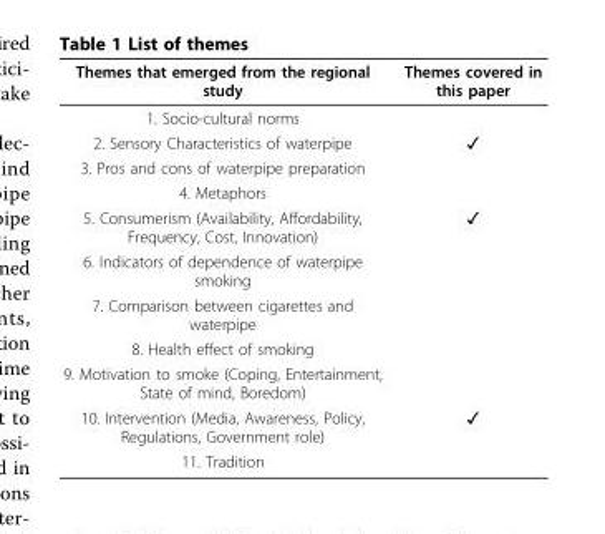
<table><thead><tr><td>Themes that emerged from the regional study</td><td>Themes covered in this paper</td></tr></thead><tbody><tr><td colspan="2">1. Socio-cultural norms</td></tr><tr><td>2. Sensory Characteristics of waterpipe</td><td>✓</td></tr><tr><td colspan="2">3. Pros and cons of waterpipe preparation</td></tr><tr><td colspan="2">4. Metaphors</td></tr><tr><td>5. Consumerism (Availability, Affordability, Frequency, Cost, Innovation)</td><td>✓</td></tr><tr><td colspan="2">6. Indicators of dependence of waterpipe smoking</td></tr><tr><td colspan="2">7. Comparison between cigarettes and waterpipe</td></tr><tr><td colspan="2">8. Health effect of smoking</td></tr><tr><td colspan="2">9. Motivation to smoke (Coping, Entertainment, State of mind, Boredom)</td></tr><tr><td>10. Intervention (Media, Awareness, Policy, Regulations, Government role)</td><td>✓</td></tr><tr><td>11. Tradition</td><td></td></tr></tbody></table>